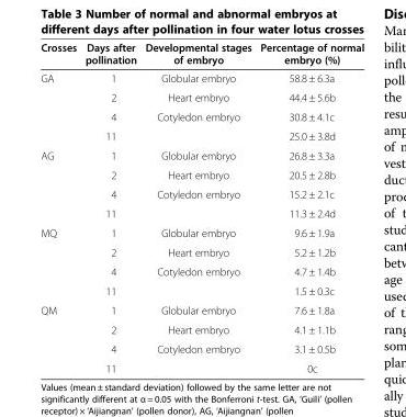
<table><thead><tr><td>Crosses</td><td>Days after pollination</td><td>Developmental stages of embryo</td><td>Percentage of normal embryo (%)</td></tr></thead><tbody><tr><td rowspan="4">GA</td><td>1</td><td>Globular embryo</td><td>58.8 ± 6.3a</td></tr><tr><td>2</td><td>Heart embryo</td><td>44.4 ± 5.6b</td></tr><tr><td>4</td><td rowspan="2">Cotyledon embryo</td><td>30.8 ± 4.1c</td></tr><tr><td>11</td><td>25.0 ± 3.8d</td></tr><tr><td rowspan="4">AG</td><td>1</td><td>Globular embryo</td><td>26.8 ± 3.3a</td></tr><tr><td>2</td><td>Heart embryo</td><td>20.5 ± 2.8b</td></tr><tr><td>4</td><td rowspan="2">Cotyledon embryo</td><td>15.2 ± 2.1c</td></tr><tr><td>11</td><td>11.3 ± 2.4d</td></tr><tr><td rowspan="4">MQ</td><td>1</td><td>Globular embryo</td><td>9.6 ± 1.9a</td></tr><tr><td>2</td><td>Heart embryo</td><td>5.2 ± 1.2b</td></tr><tr><td>4</td><td rowspan="2">Cotyledon embryo</td><td>4.7 ± 1.4b</td></tr><tr><td>11</td><td>1.5 ± 0.3c</td></tr><tr><td rowspan="4">QM</td><td>1</td><td>Globular embryo</td><td>7.6 ± 1.8a</td></tr><tr><td>2</td><td>Heart embryo</td><td>4.1 ± 1.1b</td></tr><tr><td>4</td><td rowspan="2">Cotyledon embryo</td><td>3.1 ± 0.5b</td></tr><tr><td>11</td><td>0c</td></tr></tbody></table>